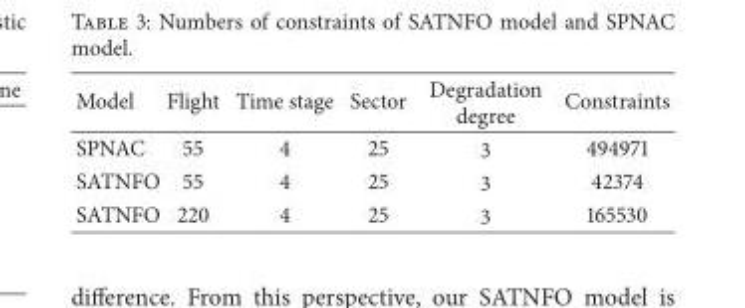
<table><thead><tr><td>Model</td><td>Flight</td><td>Time stage</td><td>Sector</td><td>Degradation degree</td><td>Constraints</td></tr></thead><tbody><tr><td>SPNAC</td><td>55</td><td>4</td><td>25</td><td>3</td><td>494971</td></tr><tr><td>SATNFO</td><td>55</td><td>4</td><td>25</td><td>3</td><td>42374</td></tr><tr><td>SATNFO</td><td>220</td><td>4</td><td>25</td><td>3</td><td>165530</td></tr></tbody></table>